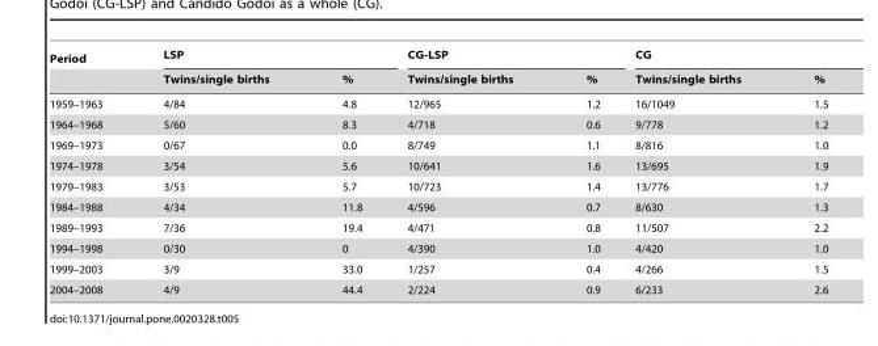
<table><thead><tr><td rowspan="2">Period</td><td colspan="2">LSP</td><td colspan="2">CG-LSP</td><td colspan="2">CG</td></tr><tr><td>Twins/single births</td><td>%</td><td>Twins/single births</td><td>%</td><td>Twins/single births</td><td>%</td></tr></thead><tbody><tr><td>1959–1963</td><td>4/84</td><td>4.8</td><td>12/965</td><td>1.2</td><td>16/1049</td><td>1.5</td></tr><tr><td>1964–1968</td><td>5/60</td><td>8.3</td><td>4/718</td><td>0.6</td><td>9/778</td><td>1.2</td></tr><tr><td>1969–1973</td><td>0/67</td><td>0.0</td><td>8/749</td><td>1.1</td><td>8/816</td><td>1.0</td></tr><tr><td>1974–1978</td><td>3/54</td><td>5.6</td><td>10/641</td><td>1.6</td><td>13/695</td><td>1.9</td></tr><tr><td>1979–1983</td><td>3/53</td><td>5.7</td><td>10/723</td><td>1.4</td><td>13/776</td><td>1.7</td></tr><tr><td>1984–1988</td><td>4/34</td><td>11.8</td><td>4/596</td><td>0.7</td><td>8/630</td><td>1.3</td></tr><tr><td>1989–1993</td><td>7/36</td><td>19.4</td><td>4/471</td><td>0.8</td><td>11/507</td><td>2.2</td></tr><tr><td>1994–1998</td><td>0/30</td><td>0</td><td>4/390</td><td>1.0</td><td>4/420</td><td>1.0</td></tr><tr><td>1999–2003</td><td>3/9</td><td>33.0</td><td>1/257</td><td>0.4</td><td>4/266</td><td>1.5</td></tr><tr><td>2004–2008</td><td>4/9</td><td>44.4</td><td>2/224</td><td>0.9</td><td>6/233</td><td>2.6</td></tr></tbody></table>